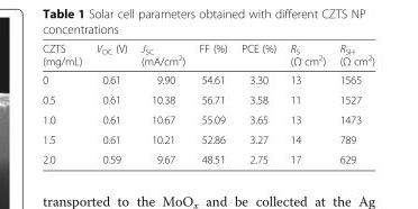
<table><thead><tr><td>CZTS (mg/mL)</td><td>V<sub>OC</sub> (V)</td><td>J<sub>SC</sub> (mA/cm<sup>2</sup>)</td><td>FF (%)</td><td>PCE (%)</td><td>R<sub>S</sub> (Ω cm<sup>2</sup>)</td><td>R<sub>SH</sub> (Ω cm<sup>2</sup>)</td></tr></thead><tbody><tr><td>0</td><td>0.61</td><td>9.90</td><td>54.61</td><td>3.30</td><td>13</td><td>1565</td></tr><tr><td>0.5</td><td>0.61</td><td>10.38</td><td>56.71</td><td>3.58</td><td>11</td><td>1527</td></tr><tr><td>1.0</td><td>0.61</td><td>10.67</td><td>55.09</td><td>3.65</td><td>13</td><td>1473</td></tr><tr><td>1.5</td><td>0.61</td><td>10.21</td><td>52.86</td><td>3.27</td><td>14</td><td>789</td></tr><tr><td>2.0</td><td>0.59</td><td>9.67</td><td>48.51</td><td>2.75</td><td>17</td><td>629</td></tr></tbody></table>